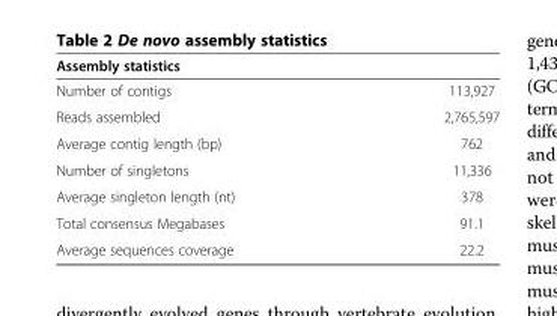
<table><thead><tr><td>Assembly statistics</td><td></td></tr></thead><tbody><tr><td>Number of contigs</td><td>113,927</td></tr><tr><td>Reads assembled</td><td>2,765,597</td></tr><tr><td>Average contig length (bp)</td><td>762</td></tr><tr><td>Number of singletons</td><td>11,336</td></tr><tr><td>Average singleton length (nt)</td><td>378</td></tr><tr><td>Total consensus Megabases</td><td>91.1</td></tr><tr><td>Average sequences coverage</td><td>22.2</td></tr></tbody></table>